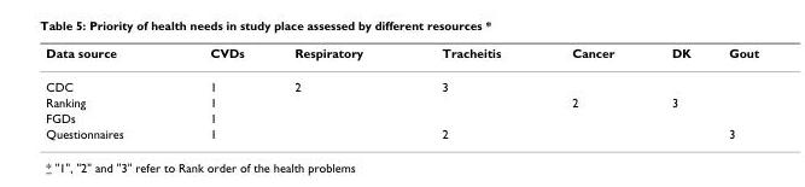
<table><thead><tr><td>Data source</td><td>CVDs</td><td>Respiratory</td><td>Tracheitis</td><td>Cancer</td><td>DK</td><td>Gout</td></tr></thead><tbody><tr><td>CDC</td><td>1</td><td>2</td><td>3</td><td></td><td></td><td></td></tr><tr><td>Ranking</td><td>1</td><td></td><td></td><td>2</td><td>3</td><td></td></tr><tr><td>FGDs</td><td>1</td><td></td><td></td><td></td><td></td><td></td></tr><tr><td>Questionnaires</td><td>1</td><td></td><td>2</td><td></td><td></td><td>3</td></tr></tbody></table>